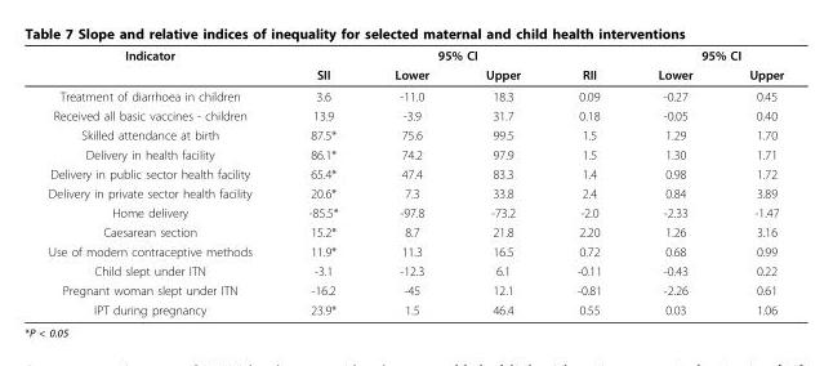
<table><thead><tr><td rowspan="2">Indicator</td><td rowspan="2">SII</td><td colspan="2">95% CI</td><td rowspan="2">RII</td><td colspan="2">95% CI</td></tr><tr><td>Lower</td><td>Upper</td><td>Lower</td><td>Upper</td></tr></thead><tbody><tr><td>Treatment of diarrhoea in children</td><td>3.6</td><td>-11.0</td><td>18.3</td><td>0.09</td><td>-0.27</td><td>0.45</td></tr><tr><td>Received all basic vaccines - children</td><td>13.9</td><td>-3.9</td><td>31.7</td><td>0.18</td><td>-0.05</td><td>0.40</td></tr><tr><td>Skilled attendance at birth</td><td>87.5*</td><td>75.6</td><td>99.5</td><td>1.5</td><td>1.29</td><td>1.70</td></tr><tr><td>Delivery in health facility</td><td>86.1*</td><td>74.2</td><td>97.9</td><td>1.5</td><td>1.30</td><td>1.71</td></tr><tr><td>Delivery in public sector health facility</td><td>65.4*</td><td>47.4</td><td>83.3</td><td>1.4</td><td>0.98</td><td>1.72</td></tr><tr><td>Delivery in private sector health facility</td><td>20.6*</td><td>7.3</td><td>33.8</td><td>2.4</td><td>0.84</td><td>3.89</td></tr><tr><td>Home delivery</td><td>-85.5*</td><td>-97.8</td><td>-73.2</td><td>-2.0</td><td>-2.33</td><td>-1.47</td></tr><tr><td>Caesarean section</td><td>15.2*</td><td>8.7</td><td>21.8</td><td>2.20</td><td>1.26</td><td>3.16</td></tr><tr><td>Use of modern contraceptive methods</td><td>11.9*</td><td>11.3</td><td>16.5</td><td>0.72</td><td>0.68</td><td>0.99</td></tr><tr><td>Child slept under ITN</td><td>-3.1</td><td>-12.3</td><td>6.1</td><td>-0.11</td><td>-0.43</td><td>0.22</td></tr><tr><td>Pregnant woman slept under ITN</td><td>-16.2</td><td>-45</td><td>12.1</td><td>-0.81</td><td>-2.26</td><td>0.61</td></tr><tr><td>IPT during pregnancy</td><td>23.9*</td><td>1.5</td><td>46.4</td><td>0.55</td><td>0.03</td><td>1.06</td></tr></tbody></table>